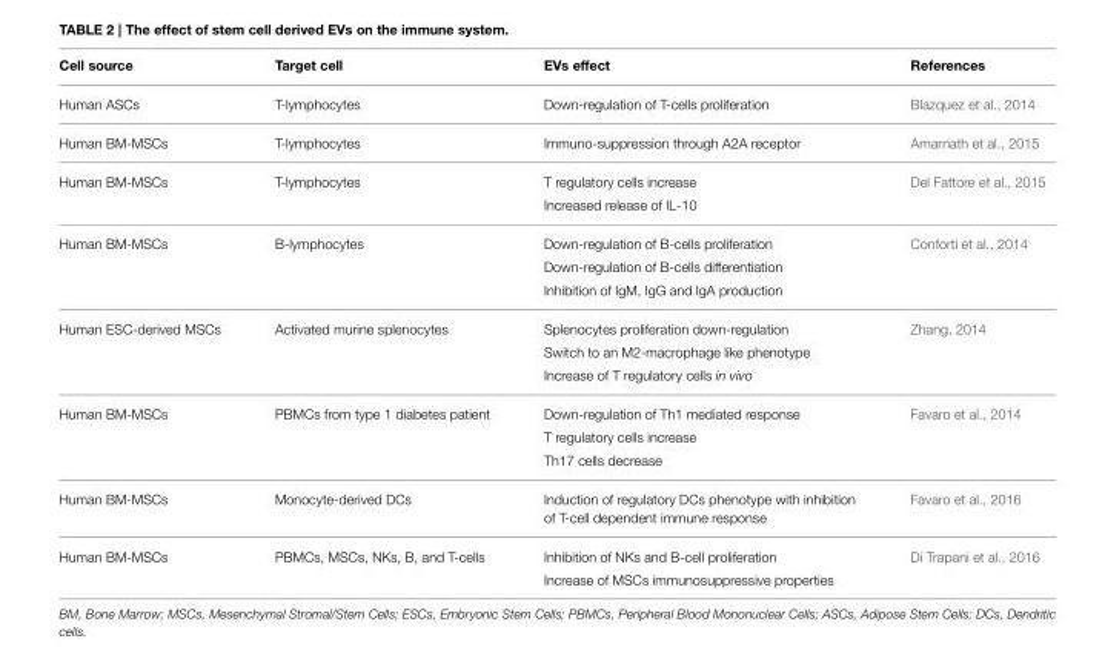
<table><thead><tr><td>Cell source</td><td>Target cell</td><td>EVs effect</td><td>References</td></tr></thead><tbody><tr><td>Human ASCs</td><td>T-lymphocytes</td><td>Down-regulation of T-cells proliferation</td><td>Blazquez et al., 2014</td></tr><tr><td>Human BM-MSCs</td><td>T-lymphocytes</td><td>Immuno-suppression through A2A receptor</td><td>Amarnath et al., 2015</td></tr><tr><td rowspan="2">Human BM-MSCs</td><td>T-lymphocytes</td><td>T regulatory cells increase</td><td>Del Fattore et al., 2015</td></tr><tr><td></td><td>Increased release of IL-10</td><td></td></tr><tr><td rowspan="3">Human BM-MSCs</td><td>B-lymphocytes</td><td>Down-regulation of B-cells proliferation</td><td>Conforti et al., 2014</td></tr><tr><td></td><td>Down-regulation of B-cells differentiation</td><td></td></tr><tr><td></td><td>Inhibition of IgM, IgG and IgA production</td><td></td></tr><tr><td rowspan="3">Human ESC-derived MSCs</td><td>Activated murine splenocytes</td><td>Splenocytes proliferation down-regulation</td><td>Zhang, 2014</td></tr><tr><td></td><td>Switch to an M2-macrophage like phenotype</td><td></td></tr><tr><td></td><td>Increase of T regulatory cells in vivo</td><td></td></tr><tr><td rowspan="3">Human BM-MSCs</td><td>PBMCs from type 1 diabetes patient</td><td>Down-regulation of Th1 mediated response</td><td>Favaro et al., 2014</td></tr><tr><td></td><td>T regulatory cells increase</td><td></td></tr><tr><td></td><td>Th17 cells decrease</td><td></td></tr><tr><td>Human BM-MSCs</td><td>Monocyte-derived DCs</td><td>Induction of regulatory DCs phenotype with inhibition of T-cell dependent immune response</td><td>Favaro et al., 2016</td></tr><tr><td rowspan="2">Human BM-MSCs</td><td>PBMCs, MSCs, NKs, B, and T-cells</td><td>Inhibition of NKs and B-cell proliferation</td><td>Di Trapani et al., 2016</td></tr><tr><td></td><td>Increase of MSCs immunosuppressive properties</td><td></td></tr></tbody></table>